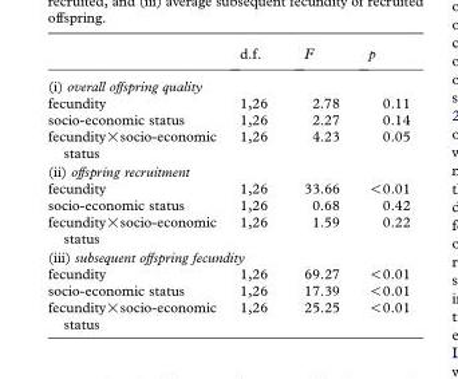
<table><thead><tr><td></td><td>d.f.</td><td>F</td><td>p</td></tr></thead><tbody><tr><td colspan="4">(i) overall offspring quality</td></tr><tr><td>fecundity</td><td>1,26</td><td>2.78</td><td>0.11</td></tr><tr><td>socio-economic status</td><td>1,26</td><td>2.27</td><td>0.14</td></tr><tr><td>fecundity×socio-economic status</td><td>1,26</td><td>4.23</td><td>0.05</td></tr><tr><td colspan="4">(ii) offspring recruitment</td></tr><tr><td>fecundity</td><td>1,26</td><td>33.66</td><td>&lt;0.01</td></tr><tr><td>socio-economic status</td><td>1,26</td><td>0.68</td><td>0.42</td></tr><tr><td>fecundity×socio-economic status</td><td>1,26</td><td>1.59</td><td>0.22</td></tr><tr><td colspan="4">(iii) subsequent offspring fecundity</td></tr><tr><td>fecundity</td><td>1,26</td><td>69.27</td><td>&lt;0.01</td></tr><tr><td>socio-economic status</td><td>1,26</td><td>17.39</td><td>&lt;0.01</td></tr><tr><td>fecundity×socio-economic status</td><td>1,26</td><td>25.25</td><td>&lt;0.01</td></tr></tbody></table>